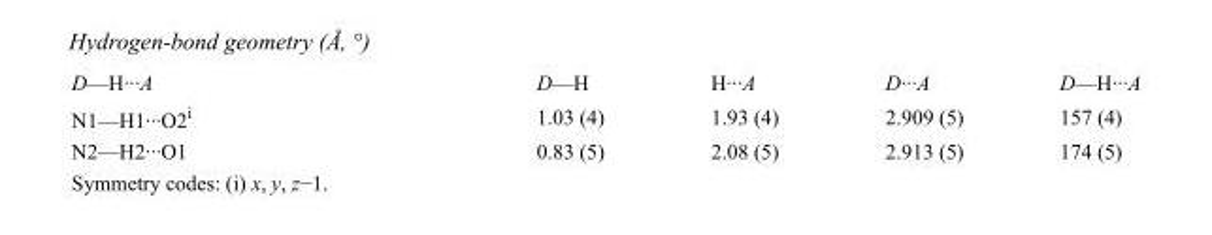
<table><tbody><tr><td>D—H···A</td><td>D—H</td><td>H···A</td><td>D···A</td><td>D—H···A</td></tr><tr><td>N1—H1···O2<sup>i</sup></td><td>1.03 (4)</td><td>1.93 (4)</td><td>2.909 (5)</td><td>157 (4)</td></tr><tr><td>N2—H2···O1</td><td>0.83 (5)</td><td>2.08 (5)</td><td>2.913 (5)</td><td>174 (5)</td></tr></tbody></table>